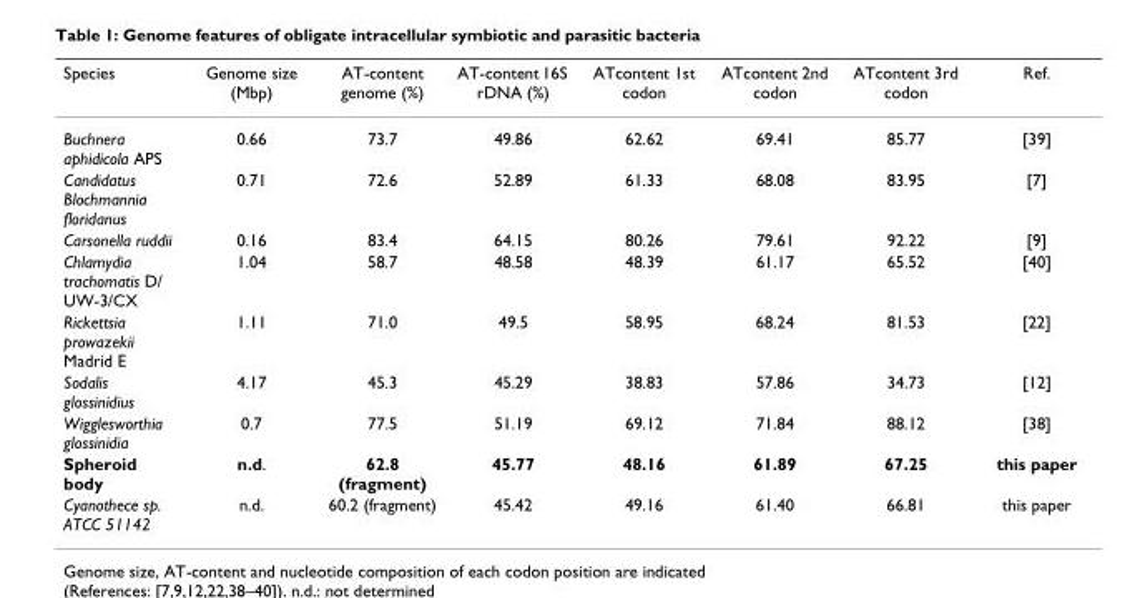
<table><thead><tr><td>Species</td><td>Genome size (Mbp)</td><td>AT-content genome (%)</td><td>AT-content 16S rDNA (%)</td><td>ATcontent 1st codon</td><td>ATcontent 2nd codon</td><td>ATcontent 3rd codon</td><td>Ref.</td></tr></thead><tbody><tr><td>Buchnera aphidicola APS</td><td>0.66</td><td>73.7</td><td>49.86</td><td>62.62</td><td>69.41</td><td>85.77</td><td>[39]</td></tr><tr><td>Candidatus Blochmannia floridanus</td><td>0.71</td><td>72.6</td><td>52.89</td><td>61.33</td><td>68.08</td><td>83.95</td><td>[7]</td></tr><tr><td>Carsonella ruddii</td><td>0.16</td><td>83.4</td><td>64.15</td><td>80.26</td><td>79.61</td><td>92.22</td><td>[9]</td></tr><tr><td>Chlamydia trachomatis D/ UW-3/CX</td><td>1.04</td><td>58.7</td><td>48.58</td><td>48.39</td><td>61.17</td><td>65.52</td><td>[40]</td></tr><tr><td>Rickettsia prowazekii Madrid E</td><td>1.11</td><td>71.0</td><td>49.5</td><td>58.95</td><td>68.24</td><td>81.53</td><td>[22]</td></tr><tr><td>Sodalis glossinidius</td><td>4.17</td><td>45.3</td><td>45.29</td><td>38.83</td><td>57.86</td><td>34.73</td><td>[12]</td></tr><tr><td>Wigglesworthia glossinidia</td><td>0.7</td><td>77.5</td><td>51.19</td><td>69.12</td><td>71.84</td><td>88.12</td><td>[38]</td></tr><tr><td>Spheroid body</td><td>n.d.</td><td>62.8 (fragment)</td><td>45.77</td><td>48.16</td><td>61.89</td><td>67.25</td><td>this paper</td></tr><tr><td>Cyanothece sp. ATCC 51142</td><td>n.d.</td><td>60.2 (fragment)</td><td>45.42</td><td>49.16</td><td>61.40</td><td>66.81</td><td>this paper</td></tr></tbody></table>